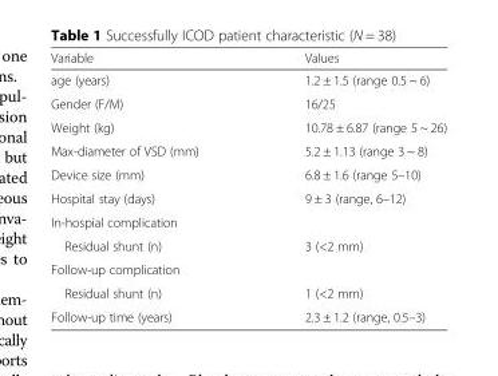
<table><thead><tr><td>Variable</td><td>Values</td></tr></thead><tbody><tr><td>age (years)</td><td>1.2 ± 1.5 (range 0.5 ~ 6)</td></tr><tr><td>Gender (F/M)</td><td>16/25</td></tr><tr><td>Weight (kg)</td><td>10.78 ± 6.87 (range 5 ~ 26)</td></tr><tr><td>Max-diameter of VSD (mm)</td><td>5.2 ± 1.13 (range 3 ~ 8)</td></tr><tr><td>Device size (mm)</td><td>6.8 ± 1.6 (range 5–10)</td></tr><tr><td>Hospital stay (days)</td><td>9 ± 3 (range, 6–12)</td></tr><tr><td colspan="2">In-hospial complication</td></tr><tr><td>Residual shunt (n)</td><td>3 (&lt;2 mm)</td></tr><tr><td colspan="2">Follow-up complication</td></tr><tr><td>Residual shunt (n)</td><td>1 (&lt;2 mm)</td></tr><tr><td>Follow-up time (years)</td><td>2.3 ± 1.2 (range, 0.5–3)</td></tr></tbody></table>